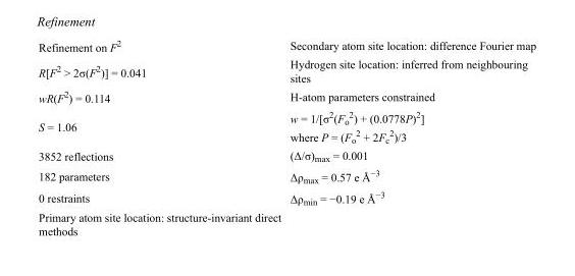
<table><tbody><tr><td>Refinement on F<sup>2</sup></td><td>Secondary atom site location: difference Fourier map</td></tr><tr><td>R[F<sup>2</sup> &gt; 2σ(F<sup>2</sup>)] = 0.041</td><td>Hydrogen site location: inferred from neighbouring sites</td></tr><tr><td>wR(F<sup>2</sup>) = 0.114</td><td>H-atom parameters constrained</td></tr><tr><td>S = 1.06</td><td>w = 1/[σ<sup>2</sup>(F<sub>o</sub> <sup>2</sup>) + (0.0778P)<sup>2</sup>] where P = (F<sub>o</sub> <sup>2</sup> + 2F<sub>c</sub> <sup>2</sup>)/3</td></tr><tr><td>3852 reflections</td><td>(Δ/σ)<sub>max</sub> = 0.001</td></tr><tr><td>182 parameters</td><td>Δρ<sub>max</sub> = 0.57 e Å<sup>−3</sup></td></tr><tr><td>0 restraints</td><td>Δρ<sub>min</sub> = −0.19 e Å<sup>−3</sup></td></tr><tr><td>Primary atom site location: structure-invariant direct methods</td><td></td></tr></tbody></table>